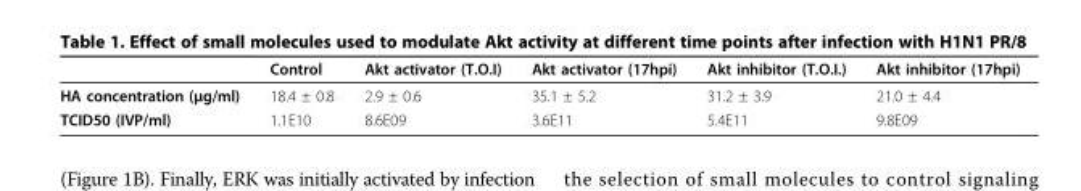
<table><thead><tr><td></td><td>Control</td><td>Akt activator (T.O.I)</td><td>Akt activator (17hpi)</td><td>Akt inhibitor (T.O.I.)</td><td>Akt inhibitor (17hpi)</td></tr></thead><tbody><tr><td>HA concentration (μg/ml)</td><td>18.4 ± 0.8</td><td>2.9 ± 0.6</td><td>35.1 ± 5.2</td><td>31.2 ± 3.9</td><td>21.0 ± 4.4</td></tr><tr><td>TCID50 (IVP/ml)</td><td>1.1E10</td><td>8.6E09</td><td>3.6E11</td><td>5.4E11</td><td>9.8E09</td></tr></tbody></table>